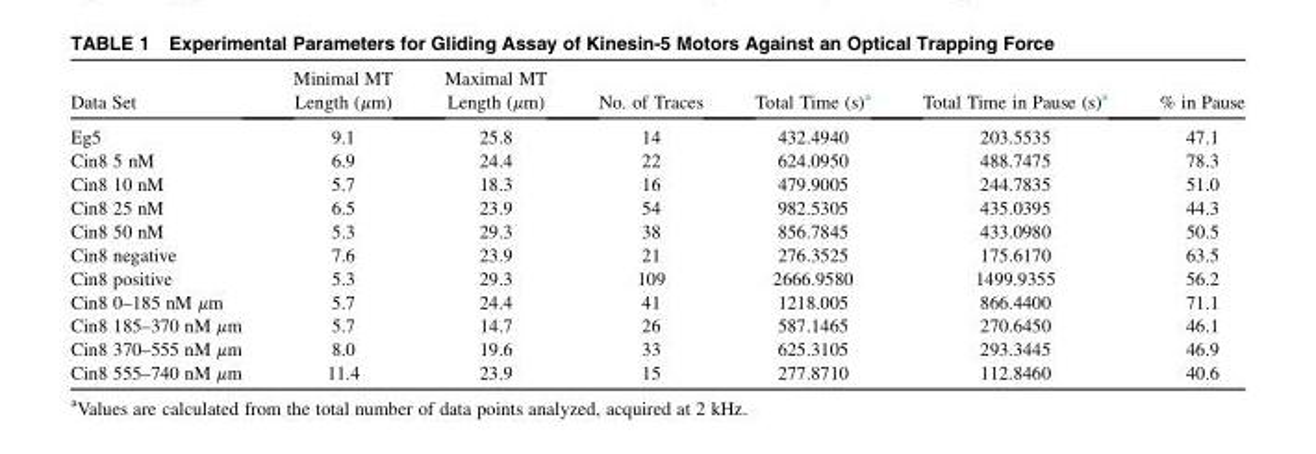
<table><thead><tr><td>Data Set</td><td>Minimal MT Length (μm)</td><td>Maximal MT Length (μm)</td><td>No. of Traces</td><td>Total Time (s)<sup>a</sup></td><td>Total Time in Pause (s)<sup>a</sup></td><td>% in Pause</td></tr></thead><tbody><tr><td>Eg5</td><td>9.1</td><td>25.8</td><td>14</td><td>432.4940</td><td>203.5535</td><td>47.1</td></tr><tr><td>Cin8 5 nM</td><td>6.9</td><td>24.4</td><td>22</td><td>624.0950</td><td>488.7475</td><td>78.3</td></tr><tr><td>Cin8 10 nM</td><td>5.7</td><td>18.3</td><td>16</td><td>479.9005</td><td>244.7835</td><td>51.0</td></tr><tr><td>Cin8 25 nM</td><td>6.5</td><td>23.9</td><td>54</td><td>982.5305</td><td>435.0395</td><td>44.3</td></tr><tr><td>Cin8 50 nM</td><td>5.3</td><td>29.3</td><td>38</td><td>856.7845</td><td>433.0980</td><td>50.5</td></tr><tr><td>Cin8 negative</td><td>7.6</td><td>23.9</td><td>21</td><td>276.3525</td><td>175.6170</td><td>63.5</td></tr><tr><td>Cin8 positive</td><td>5.3</td><td>29.3</td><td>109</td><td>2666.9580</td><td>1499.9355</td><td>56.2</td></tr><tr><td>Cin8 0–185 nM μm</td><td>5.7</td><td>24.4</td><td>41</td><td>1218.005</td><td>866.4400</td><td>71.1</td></tr><tr><td>Cin8 185–370 nM μm</td><td>5.7</td><td>14.7</td><td>26</td><td>587.1465</td><td>270.6450</td><td>46.1</td></tr><tr><td>Cin8 370–555 nM μm</td><td>8.0</td><td>19.6</td><td>33</td><td>625.3105</td><td>293.3445</td><td>46.9</td></tr><tr><td>Cin8 555–740 nM μm</td><td>11.4</td><td>23.9</td><td>15</td><td>277.8710</td><td>112.8460</td><td>40.6</td></tr></tbody></table>